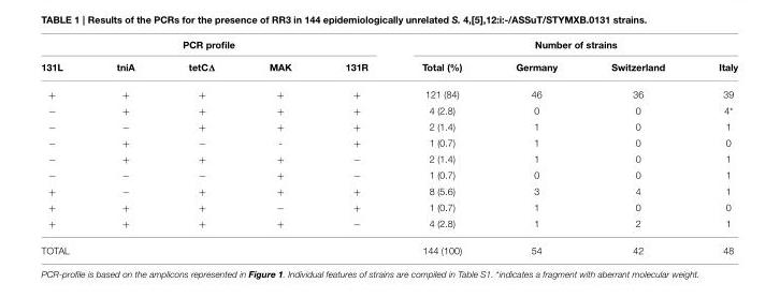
<table><thead><tr><td colspan="5">PCR profile</td><td colspan="4">Number of strains</td></tr><tr><td>131L</td><td>tniA</td><td>tetCΔ</td><td>MAK</td><td>131R</td><td>Total (%)</td><td>Germany</td><td>Switzerland</td><td>Italy</td></tr></thead><tbody><tr><td>+</td><td>+</td><td>+</td><td>+</td><td>+</td><td>121 (84)</td><td>46</td><td>36</td><td>39</td></tr><tr><td>−</td><td>+</td><td>+</td><td>+</td><td>+</td><td>4 (2.8)</td><td>0</td><td>0</td><td>4*</td></tr><tr><td>−</td><td>−</td><td>+</td><td>+</td><td>+</td><td>2 (1.4)</td><td>1</td><td>0</td><td>1</td></tr><tr><td>−</td><td>+</td><td>−</td><td>-</td><td>+</td><td>1 (0.7)</td><td>1</td><td>0</td><td>0</td></tr><tr><td>−</td><td>+</td><td>+</td><td>+</td><td>−</td><td>2 (1.4)</td><td>1</td><td>0</td><td>1</td></tr><tr><td>−</td><td>−</td><td>−</td><td>+</td><td>−</td><td>1 (0.7)</td><td>0</td><td>0</td><td>1</td></tr><tr><td>+</td><td>−</td><td>+</td><td>+</td><td>+</td><td>8 (5.6)</td><td>3</td><td>4</td><td>1</td></tr><tr><td>+</td><td>+</td><td>+</td><td>−</td><td>+</td><td>1 (0.7)</td><td>1</td><td>0</td><td>0</td></tr><tr><td>+</td><td>+</td><td>+</td><td>+</td><td>−</td><td>4 (2.8)</td><td>1</td><td>2</td><td>1</td></tr><tr><td colspan="5">TOTAL</td><td>144 (100)</td><td>54</td><td>42</td><td>48</td></tr></tbody></table>